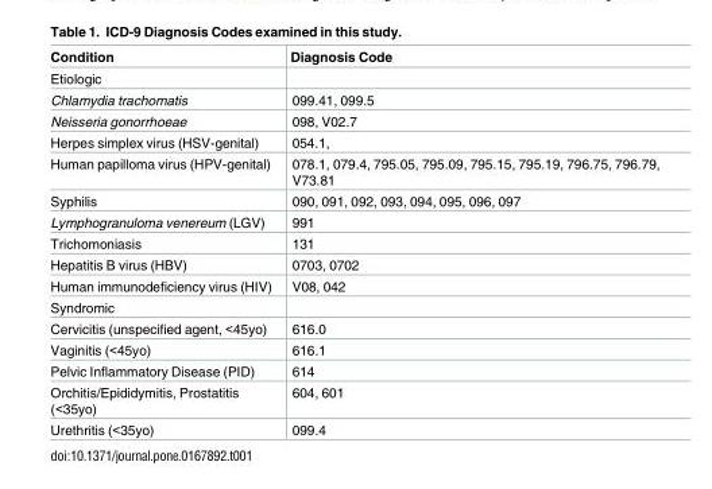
<table><thead><tr><td>Condition</td><td>Diagnosis Code</td></tr></thead><tbody><tr><td colspan="2">Etiologic</td></tr><tr><td>Chlamydia trachomatis</td><td>099.41, 099.5</td></tr><tr><td>Neisseria gonorrhoeae</td><td>098, V02.7</td></tr><tr><td>Herpes simplex virus (HSV-genital)</td><td>054.1,</td></tr><tr><td>Human papilloma virus (HPV-genital)</td><td>078.1, 079.4, 795.05, 795.09, 795.15, 795.19, 796.75, 796.79, V73.81</td></tr><tr><td>Syphilis</td><td>090, 091, 092, 093, 094, 095, 096, 097</td></tr><tr><td>Lymphogranuloma venereum (LGV)</td><td>991</td></tr><tr><td>Trichomoniasis</td><td>131</td></tr><tr><td>Hepatitis B virus (HBV)</td><td>0703, 0702</td></tr><tr><td>Human immunodeficiency virus (HIV)</td><td>V08, 042</td></tr><tr><td colspan="2">Syndromic</td></tr><tr><td>Cervicitis (unspecified agent, &lt;45yo)</td><td>616.0</td></tr><tr><td>Vaginitis (&lt;45yo)</td><td>616.1</td></tr><tr><td>Pelvic Inflammatory Disease (PID)</td><td>614</td></tr><tr><td>Orchitis/Epididymitis, Prostatitis (&lt;35yo)</td><td>604, 601</td></tr><tr><td>Urethritis (&lt;35yo)</td><td>099.4</td></tr></tbody></table>